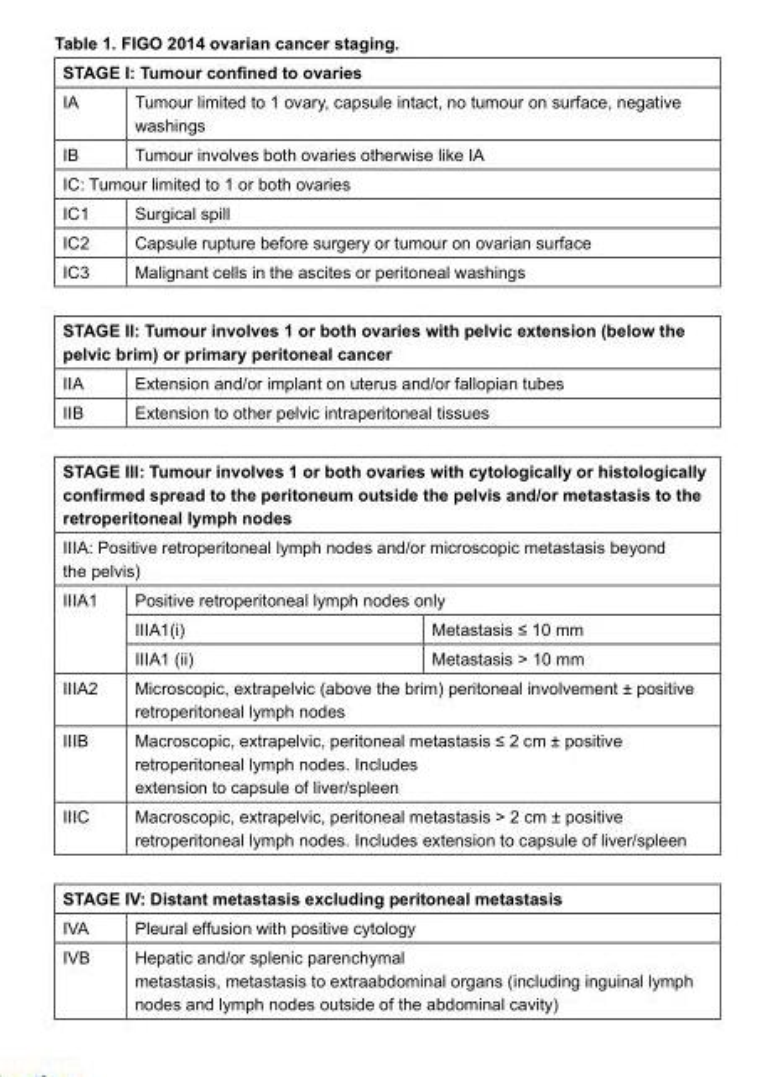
<table><tbody><tr><td colspan="3">STAGE I: Tumour confined to ovaries</td></tr><tr><td>IA</td><td colspan="2">Tumour limited to 1 ovary, capsule intact, no tumour on surface, negative washings</td></tr><tr><td>IB</td><td colspan="2">Tumour involves both ovaries otherwise like IA</td></tr><tr><td colspan="3">IC: Tumour limited to 1 or both ovaries</td></tr><tr><td>IC1</td><td colspan="2">Surgical spill</td></tr><tr><td>IC2</td><td colspan="2">Capsule rupture before surgery or tumour on ovarian surface</td></tr><tr><td>IC3</td><td colspan="2">Malignant cells in the ascites or peritoneal washings</td></tr><tr><td colspan="3">STAGE II: Tumour involves 1 or both ovaries with pelvic extension (below the pelvic brim) or primary peritoneal cancer</td></tr><tr><td>IIA</td><td colspan="2">Extension and/or implant on uterus and/or fallopian tubes</td></tr><tr><td>IIB</td><td colspan="2">Extension to other pelvic intraperitoneal tissues</td></tr><tr><td colspan="3">STAGE III: Tumour involves 1 or both ovaries with cytologically or histologically confirmed spread to the peritoneum outside the pelvis and/or metastasis to the retroperitoneal lymph nodes</td></tr><tr><td colspan="3">IIIA: Positive retroperitoneal lymph nodes and/or microscopic metastasis beyond the pelvis)</td></tr><tr><td rowspan="3">IIIA1</td><td colspan="2">Positive retroperitoneal lymph nodes only</td></tr><tr><td>IIIA1(i)</td><td>Metastasis ≤ 10 mm</td></tr><tr><td>IIIA1 (ii)</td><td>Metastasis &gt; 10 mm</td></tr><tr><td>IIIA2</td><td colspan="2">Microscopic, extrapelvic (above the brim) peritoneal involvement ± positive retroperitoneal lymph nodes</td></tr><tr><td>IIIB</td><td colspan="2">Macroscopic, extrapelvic, peritoneal metastasis ≤ 2 cm ± positive retroperitoneal lymph nodes. Includes extension to capsule of liver/spleen</td></tr><tr><td>IIIC</td><td colspan="2">Macroscopic, extrapelvic, peritoneal metastasis &gt; 2 cm ± positive retroperitoneal lymph nodes. Includes extension to capsule of liver/spleen</td></tr><tr><td colspan="3">STAGE IV: Distant metastasis excluding peritoneal metastasis</td></tr><tr><td>IVA</td><td colspan="2">Pleural effusion with positive cytology</td></tr><tr><td>IVB</td><td colspan="2">Hepatic and/or splenic parenchymal metastasis, metastasis to extraabdominal organs (including inguinal lymph nodes and lymph nodes outside of the abdominal cavity)</td></tr></tbody></table>